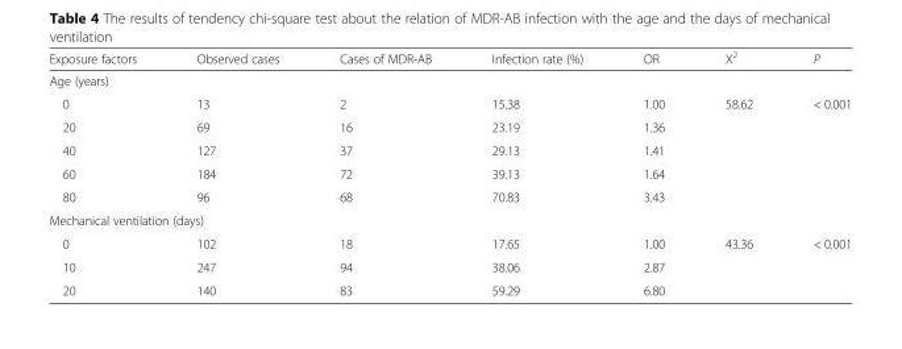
<table><thead><tr><td>Exposure factors</td><td>Observed cases</td><td>Cases of MDR-AB</td><td>Infection rate (%)</td><td>OR</td><td>Χ<sup>2</sup></td><td>P</td></tr></thead><tbody><tr><td colspan="7">Age (years)</td></tr><tr><td>0</td><td>13</td><td>2</td><td>15.38</td><td>1.00</td><td rowspan="5">58.62</td><td rowspan="5">&lt; 0.001</td></tr><tr><td>20</td><td>69</td><td>16</td><td>23.19</td><td>1.36</td></tr><tr><td>40</td><td>127</td><td>37</td><td>29.13</td><td>1.41</td></tr><tr><td>60</td><td>184</td><td>72</td><td>39.13</td><td>1.64</td></tr><tr><td>80</td><td>96</td><td>68</td><td>70.83</td><td>3.43</td></tr><tr><td colspan="7">Mechanical ventilation (days)</td></tr><tr><td>0</td><td>102</td><td>18</td><td>17.65</td><td>1.00</td><td rowspan="3">43.36</td><td rowspan="3">&lt; 0.001</td></tr><tr><td>10</td><td>247</td><td>94</td><td>38.06</td><td>2.87</td></tr><tr><td>20</td><td>140</td><td>83</td><td>59.29</td><td>6.80</td></tr></tbody></table>